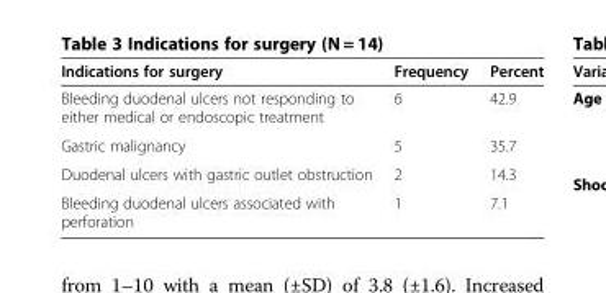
<table><thead><tr><td>Indications for surgery</td><td>Frequency</td><td>Percent</td></tr></thead><tbody><tr><td>Bleeding duodenal ulcers not responding to either medical or endoscopic treatment</td><td>6</td><td>42.9</td></tr><tr><td>Gastric malignancy</td><td>5</td><td>35.7</td></tr><tr><td>Duodenal ulcers with gastric outlet obstruction</td><td>2</td><td>14.3</td></tr><tr><td>Bleeding duodenal ulcers associated with perforation</td><td>1</td><td>7.1</td></tr></tbody></table>